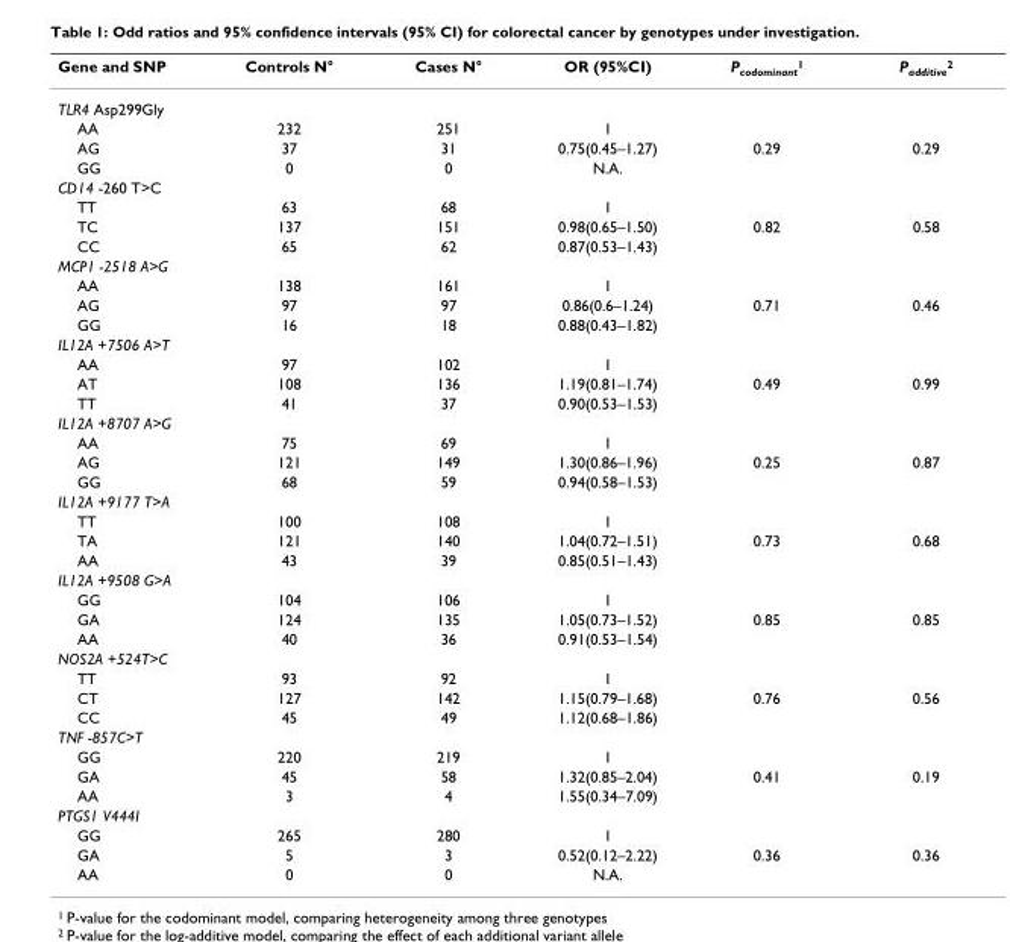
<table><thead><tr><td>Gene and SNP</td><td>Controls N°</td><td>Cases N°</td><td>OR (95%CI)</td><td>P<sub>codominant</sub><sup>1</sup></td><td>P<sub>additive</sub><sup>2</sup></td></tr></thead><tbody><tr><td colspan="6">TLR4 Asp299Gly</td></tr><tr><td>AA</td><td>232</td><td>251</td><td>1</td><td></td><td></td></tr><tr><td>AG</td><td>37</td><td>31</td><td>0.75(0.45–1.27)</td><td>0.29</td><td>0.29</td></tr><tr><td>GG</td><td>0</td><td>0</td><td>N.A.</td><td></td><td></td></tr><tr><td colspan="6">CD14 -260 T&gt;C</td></tr><tr><td>TT</td><td>63</td><td>68</td><td>1</td><td></td><td></td></tr><tr><td>TC</td><td>137</td><td>151</td><td>0.98(0.65–1.50)</td><td>0.82</td><td>0.58</td></tr><tr><td>CC</td><td>65</td><td>62</td><td>0.87(0.53–1.43)</td><td></td><td></td></tr><tr><td colspan="6">MCP1 -2518 A&gt;G</td></tr><tr><td>AA</td><td>138</td><td>161</td><td>1</td><td></td><td></td></tr><tr><td>AG</td><td>97</td><td>97</td><td>0.86(0.6–1.24)</td><td>0.71</td><td>0.46</td></tr><tr><td>GG</td><td>16</td><td>18</td><td>0.88(0.43–1.82)</td><td></td><td></td></tr><tr><td colspan="6">IL12A +7506 A&gt;T</td></tr><tr><td>AA</td><td>97</td><td>102</td><td>1</td><td></td><td></td></tr><tr><td>AT</td><td>108</td><td>136</td><td>1.19(0.81–1.74)</td><td>0.49</td><td>0.99</td></tr><tr><td>TT</td><td>41</td><td>37</td><td>0.90(0.53–1.53)</td><td></td><td></td></tr><tr><td colspan="6">IL12A +8707 A&gt;G</td></tr><tr><td>AA</td><td>75</td><td>69</td><td>1</td><td></td><td></td></tr><tr><td>AG</td><td>121</td><td>149</td><td>1.30(0.86–1.96)</td><td>0.25</td><td>0.87</td></tr><tr><td>GG</td><td>68</td><td>59</td><td>0.94(0.58–1.53)</td><td></td><td></td></tr><tr><td colspan="6">IL12A +9177 T&gt;A</td></tr><tr><td>TT</td><td>100</td><td>108</td><td>1</td><td></td><td></td></tr><tr><td>TA</td><td>121</td><td>140</td><td>1.04(0.72–1.51)</td><td>0.73</td><td>0.68</td></tr><tr><td>AA</td><td>43</td><td>39</td><td>0.85(0.51–1.43)</td><td></td><td></td></tr><tr><td colspan="6">IL12A +9508 G&gt;A</td></tr><tr><td>GG</td><td>104</td><td>106</td><td>1</td><td></td><td></td></tr><tr><td>GA</td><td>124</td><td>135</td><td>1.05(0.73–1.52)</td><td>0.85</td><td>0.85</td></tr><tr><td>AA</td><td>40</td><td>36</td><td>0.91(0.53–1.54)</td><td></td><td></td></tr><tr><td colspan="6">NOS2A +524T&gt;C</td></tr><tr><td>TT</td><td>93</td><td>92</td><td>1</td><td></td><td></td></tr><tr><td>CT</td><td>127</td><td>142</td><td>1.15(0.79–1.68)</td><td>0.76</td><td>0.56</td></tr><tr><td>CC</td><td>45</td><td>49</td><td>1.12(0.68–1.86)</td><td></td><td></td></tr><tr><td colspan="6">TNF -857C&gt;T</td></tr><tr><td>GG</td><td>220</td><td>219</td><td>1</td><td></td><td></td></tr><tr><td>GA</td><td>45</td><td>58</td><td>1.32(0.85–2.04)</td><td>0.41</td><td>0.19</td></tr><tr><td>AA</td><td>3</td><td>4</td><td>1.55(0.34–7.09)</td><td></td><td></td></tr><tr><td colspan="6">PTGS1 V444I</td></tr><tr><td>GG</td><td>265</td><td>280</td><td>1</td><td></td><td></td></tr><tr><td>GA</td><td>5</td><td>3</td><td>0.52(0.12–2.22)</td><td>0.36</td><td>0.36</td></tr><tr><td>AA</td><td>0</td><td>0</td><td>N.A.</td><td></td><td></td></tr></tbody></table>